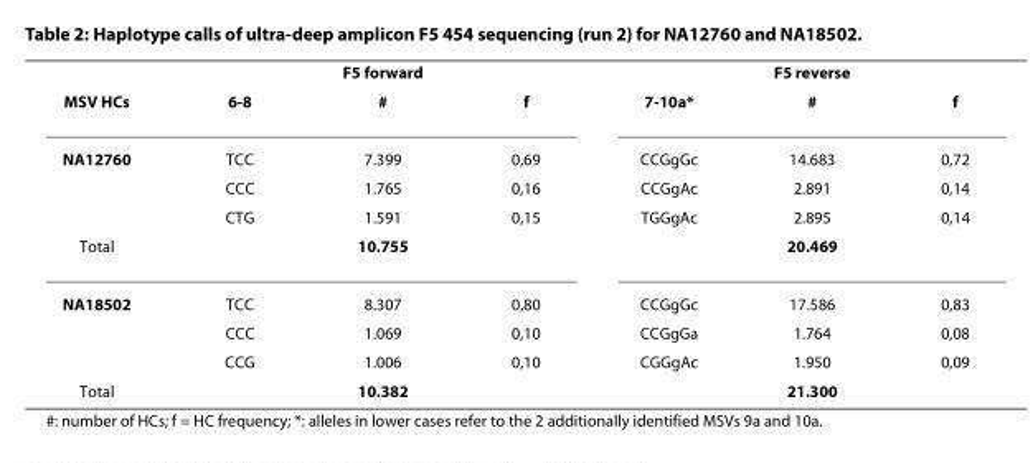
<table><thead><tr><td rowspan="2">MSV HCs</td><td colspan="3">F5 forward</td><td colspan="3">F5 reverse</td></tr><tr><td>6-8</td><td>#</td><td>f</td><td>7-10a*</td><td>#</td><td>f</td></tr></thead><tbody><tr><td rowspan="3">NA12760</td><td>TCC</td><td>7.399</td><td>0,69</td><td>CCGgGc</td><td>14.683</td><td>0,72</td></tr><tr><td>CCC</td><td>1.765</td><td>0,16</td><td>CCGgAc</td><td>2.891</td><td>0,14</td></tr><tr><td>CTG</td><td>1.591</td><td>0,15</td><td>TGGgAc</td><td>2.895</td><td>0,14</td></tr><tr><td>Total</td><td></td><td>10.755</td><td></td><td></td><td>20.469</td><td></td></tr><tr><td rowspan="3">NA18502</td><td>TCC</td><td>8.307</td><td>0,80</td><td>CCGgGc</td><td>17.586</td><td>0,83</td></tr><tr><td>CCC</td><td>1.069</td><td>0,10</td><td>CCGgGa</td><td>1.764</td><td>0,08</td></tr><tr><td>CCG</td><td>1.006</td><td>0,10</td><td>CGGgAc</td><td>1.950</td><td>0,09</td></tr><tr><td>Total</td><td></td><td>10.382</td><td></td><td></td><td>21.300</td><td></td></tr></tbody></table>